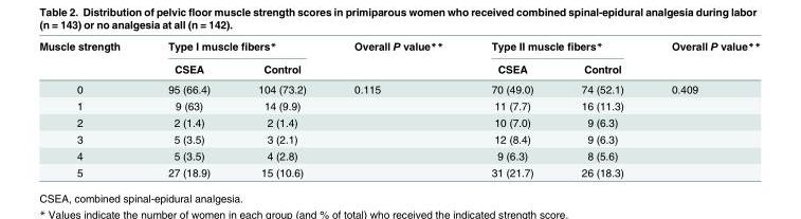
<table><thead><tr><td rowspan="2">Muscle strength</td><td colspan="2">Type I muscle fibers*</td><td rowspan="2">Overall P value**</td><td colspan="2">Type II muscle fibers*</td><td rowspan="2">Overall P value**</td></tr><tr><td>CSEA</td><td>Control</td><td>CSEA</td><td>Control</td></tr></thead><tbody><tr><td>0</td><td>95 (66.4)</td><td>104 (73.2)</td><td>0.115</td><td>70 (49.0)</td><td>74 (52.1)</td><td>0.409</td></tr><tr><td>1</td><td>9 (63)</td><td>14 (9.9)</td><td></td><td>11 (7.7)</td><td>16 (11.3)</td><td></td></tr><tr><td>2</td><td>2 (1.4)</td><td>2 (1.4)</td><td></td><td>10 (7.0)</td><td>9 (6.3)</td><td></td></tr><tr><td>3</td><td>5 (3.5)</td><td>3 (2.1)</td><td></td><td>12 (8.4)</td><td>9 (6.3)</td><td></td></tr><tr><td>4</td><td>5 (3.5)</td><td>4 (2.8)</td><td></td><td>9 (6.3)</td><td>8 (5.6)</td><td></td></tr><tr><td>5</td><td>27 (18.9)</td><td>15 (10.6)</td><td></td><td>31 (21.7)</td><td>26 (18.3)</td><td></td></tr></tbody></table>